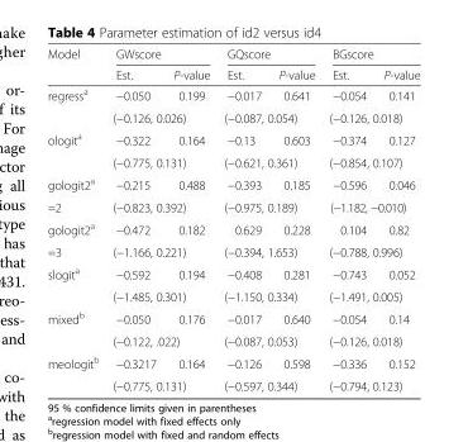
<table><thead><tr><td rowspan="2">Model</td><td colspan="2">GWscore</td><td colspan="2">GQscore</td><td colspan="2">BGscore</td></tr><tr><td>Est.</td><td>P-value</td><td>Est.</td><td>P-value</td><td>Est.</td><td>P-value</td></tr></thead><tbody><tr><td rowspan="2">regress<sup>a</sup></td><td>−0.050</td><td>0.199</td><td>−0.017</td><td>0.641</td><td>−0.054</td><td>0.141</td></tr><tr><td colspan="2">(−0.126, 0.026)</td><td colspan="2">(−0.087, 0.054)</td><td colspan="2">(−0.126, 0.018)</td></tr><tr><td rowspan="2">ologit<sup>a</sup></td><td>−0.322</td><td>0.164</td><td>−0.13</td><td>0.603</td><td>−0.374</td><td>0.127</td></tr><tr><td colspan="2">(−0.775, 0.131)</td><td colspan="2">(−0.621, 0.361)</td><td colspan="2">(−0.854, 0.107)</td></tr><tr><td>gologit2<sup>a</sup></td><td>−0.215</td><td>0.488</td><td>−0.393</td><td>0.185</td><td>−0.596</td><td>0.046</td></tr><tr><td>=2</td><td colspan="2">(−0.823, 0.392)</td><td colspan="2">(−0.975, 0.189)</td><td colspan="2">(−1.182, −0.010)</td></tr><tr><td>gologit2<sup>a</sup></td><td>−0.472</td><td>0.182</td><td>0.629</td><td>0.228</td><td>0.104</td><td>0.82</td></tr><tr><td>=3</td><td colspan="2">(−1.166, 0.221)</td><td colspan="2">(−0.394, 1.653)</td><td colspan="2">(−0.788, 0.996)</td></tr><tr><td rowspan="2">slogit<sup>a</sup></td><td>−0.592</td><td>0.194</td><td>−0.408</td><td>0.281</td><td>−0.743</td><td>0.052</td></tr><tr><td colspan="2">(−1.485, 0.301)</td><td colspan="2">(−1.150, 0.334)</td><td colspan="2">(−1.491, 0.005)</td></tr><tr><td rowspan="2">mixed<sup>b</sup></td><td>−0.050</td><td>0.176</td><td>−0.017</td><td>0.640</td><td>−0.054</td><td>0.14</td></tr><tr><td colspan="2">(−0.122, .022)</td><td colspan="2">(−0.087, 0.053)</td><td colspan="2">(−0.126, 0.018)</td></tr><tr><td rowspan="2">meologit<sup>b</sup></td><td>−0.3217</td><td>0.164</td><td>−0.126</td><td>0.598</td><td>−0.336</td><td>0.152</td></tr><tr><td colspan="2">(−0.775, 0.131)</td><td colspan="2">(−0.597, 0.344)</td><td colspan="2">(−0.794, 0.123)</td></tr></tbody></table>